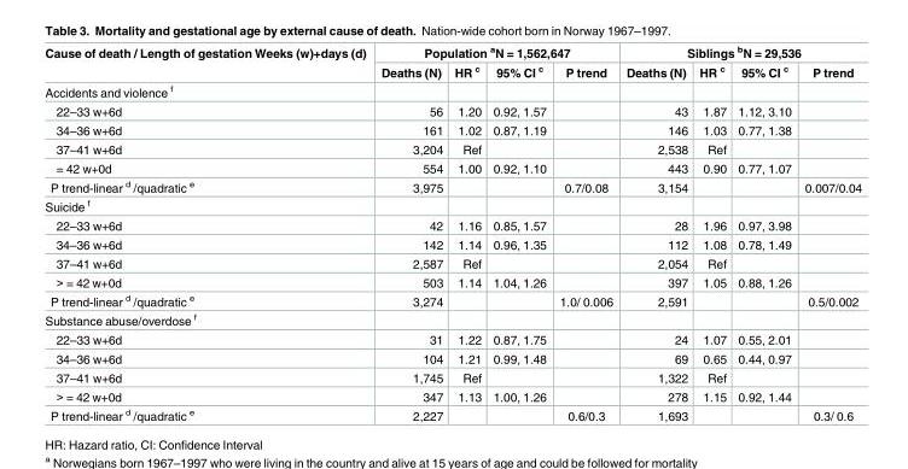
<table><thead><tr><td rowspan="2">Cause of death / Length of gestation Weeks (w)+days (d)</td><td colspan="4">Population <sup>a</sup>N = 1,562,647</td><td colspan="4">Siblings <sup>b</sup>N = 29,536</td></tr><tr><td>Deaths (N)</td><td>HR <sup>c</sup></td><td>95% CI <sup>c</sup></td><td>P trend</td><td>Deaths (N)</td><td>HR <sup>c</sup></td><td>95% CI <sup>c</sup></td><td>P trend</td></tr></thead><tbody><tr><td colspan="9">Accidents and violence <sup>f</sup></td></tr><tr><td>22–33 w+6d</td><td>56</td><td>1.20</td><td>0.92, 1.57</td><td></td><td>43</td><td>1.87</td><td>1.12, 3.10</td><td></td></tr><tr><td>34–36 w+6d</td><td>161</td><td>1.02</td><td>0.87, 1.19</td><td></td><td>146</td><td>1.03</td><td>0.77, 1.38</td><td></td></tr><tr><td>37–41 w+6d</td><td>3,204</td><td>Ref</td><td></td><td></td><td>2,538</td><td>Ref</td><td></td><td></td></tr><tr><td>= 42 w+0d</td><td>554</td><td>1.00</td><td>0.92, 1.10</td><td></td><td>443</td><td>0.90</td><td>0.77, 1.07</td><td></td></tr><tr><td>P trend-linear <sup>d</sup> /quadratic <sup>e</sup></td><td>3,975</td><td></td><td></td><td>0.7/0.08</td><td>3,154</td><td></td><td></td><td>0.007/0.04</td></tr><tr><td colspan="9">Suicide <sup>f</sup></td></tr><tr><td>22–33 w+6d</td><td>42</td><td>1.16</td><td>0.85, 1.57</td><td></td><td>28</td><td>1.96</td><td>0.97, 3.98</td><td></td></tr><tr><td>34–36 w+6d</td><td>142</td><td>1.14</td><td>0.96, 1.35</td><td></td><td>112</td><td>1.08</td><td>0.78, 1.49</td><td></td></tr><tr><td>37–41 w+6d</td><td>2,587</td><td>Ref</td><td></td><td></td><td>2,054</td><td>Ref</td><td></td><td></td></tr><tr><td>&gt; = 42 w+0d</td><td>503</td><td>1.14</td><td>1.04, 1.26</td><td></td><td>397</td><td>1.05</td><td>0.88, 1.26</td><td></td></tr><tr><td>P trend-linear <sup>d</sup> /quadratic <sup>e</sup></td><td>3,274</td><td></td><td></td><td>1.0/ 0.006</td><td>2,591</td><td></td><td></td><td>0.5/0.002</td></tr><tr><td colspan="9">Substance abuse/overdose <sup>f</sup></td></tr><tr><td>22–33 w+6d</td><td>31</td><td>1.22</td><td>0.87, 1.75</td><td></td><td>24</td><td>1.07</td><td>0.55, 2.01</td><td></td></tr><tr><td>34–36 w+6d</td><td>104</td><td>1.21</td><td>0.99, 1.48</td><td></td><td>69</td><td>0.65</td><td>0.44, 0.97</td><td></td></tr><tr><td>37–41 w+6d</td><td>1,745</td><td>Ref</td><td></td><td></td><td>1,322</td><td>Ref</td><td></td><td></td></tr><tr><td>&gt; = 42 w+0d</td><td>347</td><td>1.13</td><td>1.00, 1.26</td><td></td><td>278</td><td>1.15</td><td>0.92, 1.44</td><td></td></tr><tr><td>P trend-linear <sup>d</sup> /quadratic <sup>e</sup></td><td>2,227</td><td></td><td></td><td>0.6/0.3</td><td>1,693</td><td></td><td></td><td>0.3/ 0.6</td></tr></tbody></table>